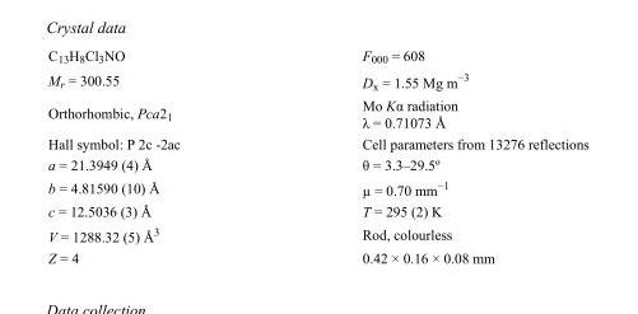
<table><tbody><tr><td>C<sub>13</sub>H<sub>8</sub>Cl<sub>3</sub>NO</td><td>F<sub>000</sub> = 608</td></tr><tr><td>M<sub>r</sub> = 300.55</td><td>D<sub>x</sub> = 1.55 Mg m<sup>−3</sup></td></tr><tr><td>Orthorhombic, Pca2<sub>1</sub></td><td>Mo Kα radiation λ = 0.71073 Å</td></tr><tr><td>Hall symbol: P 2c -2ac</td><td>Cell parameters from 13276 reflections</td></tr><tr><td>a = 21.3949 (4) Å</td><td>θ = 3.3–29.5º</td></tr><tr><td>b = 4.81590 (10) Å</td><td>µ = 0.70 mm<sup>−1</sup></td></tr><tr><td>c = 12.5036 (3) Å</td><td>T = 295 (2) K</td></tr><tr><td>V = 1288.32 (5) Å<sup>3</sup></td><td>Rod, colourless</td></tr><tr><td>Z = 4</td><td>0.42 × 0.16 × 0.08 mm</td></tr></tbody></table>